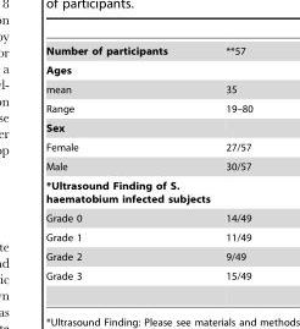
<table><tbody><tr><td>Number of participants</td><td>**57</td></tr><tr><td colspan="2">Ages</td></tr><tr><td>mean</td><td>35</td></tr><tr><td>Range</td><td>19–80</td></tr><tr><td colspan="2">Sex</td></tr><tr><td>Female</td><td>27/57</td></tr><tr><td>Male</td><td>30/57</td></tr><tr><td colspan="2">*Ultrasound Finding of S. haematobium infected subjects</td></tr><tr><td>Grade 0</td><td>14/49</td></tr><tr><td>Grade 1</td><td>11/49</td></tr><tr><td>Grade 2</td><td>9/49</td></tr><tr><td>Grade 3</td><td>15/49</td></tr></tbody></table>